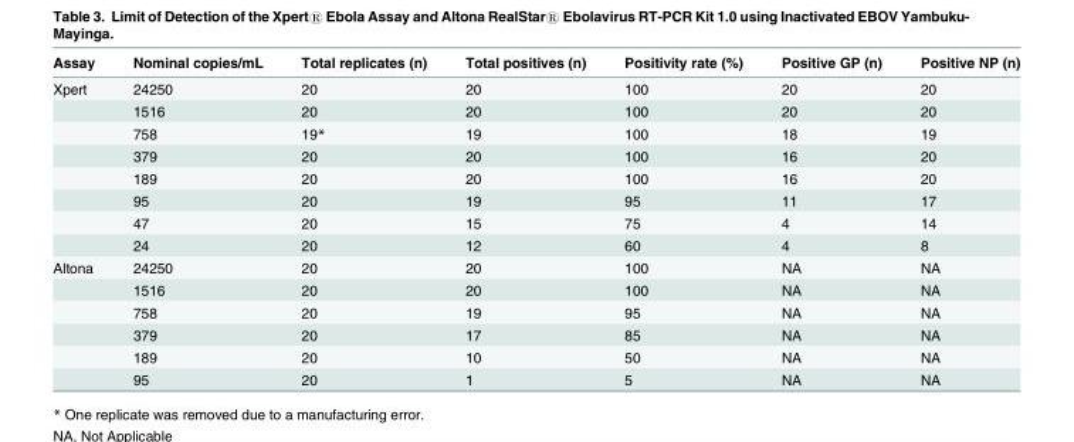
<table><thead><tr><td>Assay</td><td>Nominal copies/mL</td><td>Total replicates (n)</td><td>Total positives (n)</td><td>Positivity rate (%)</td><td>Positive GP (n)</td><td>Positive NP (n)</td></tr></thead><tbody><tr><td rowspan="8">Xpert</td><td>24250</td><td>20</td><td>20</td><td>100</td><td>20</td><td>20</td></tr><tr><td>1516</td><td>20</td><td>20</td><td>100</td><td>20</td><td>20</td></tr><tr><td>758</td><td>19*</td><td>19</td><td>100</td><td>18</td><td>19</td></tr><tr><td>379</td><td>20</td><td>20</td><td>100</td><td>16</td><td>20</td></tr><tr><td>189</td><td>20</td><td>20</td><td>100</td><td>16</td><td>20</td></tr><tr><td>95</td><td>20</td><td>19</td><td>95</td><td>11</td><td>17</td></tr><tr><td>47</td><td>20</td><td>15</td><td>75</td><td>4</td><td>14</td></tr><tr><td>24</td><td>20</td><td>12</td><td>60</td><td>4</td><td>8</td></tr><tr><td rowspan="6">Altona</td><td>24250</td><td>20</td><td>20</td><td>100</td><td>NA</td><td>NA</td></tr><tr><td>1516</td><td>20</td><td>20</td><td>100</td><td>NA</td><td>NA</td></tr><tr><td>758</td><td>20</td><td>19</td><td>95</td><td>NA</td><td>NA</td></tr><tr><td>379</td><td>20</td><td>17</td><td>85</td><td>NA</td><td>NA</td></tr><tr><td>189</td><td>20</td><td>10</td><td>50</td><td>NA</td><td>NA</td></tr><tr><td>95</td><td>20</td><td>1</td><td>5</td><td>NA</td><td>NA</td></tr></tbody></table>